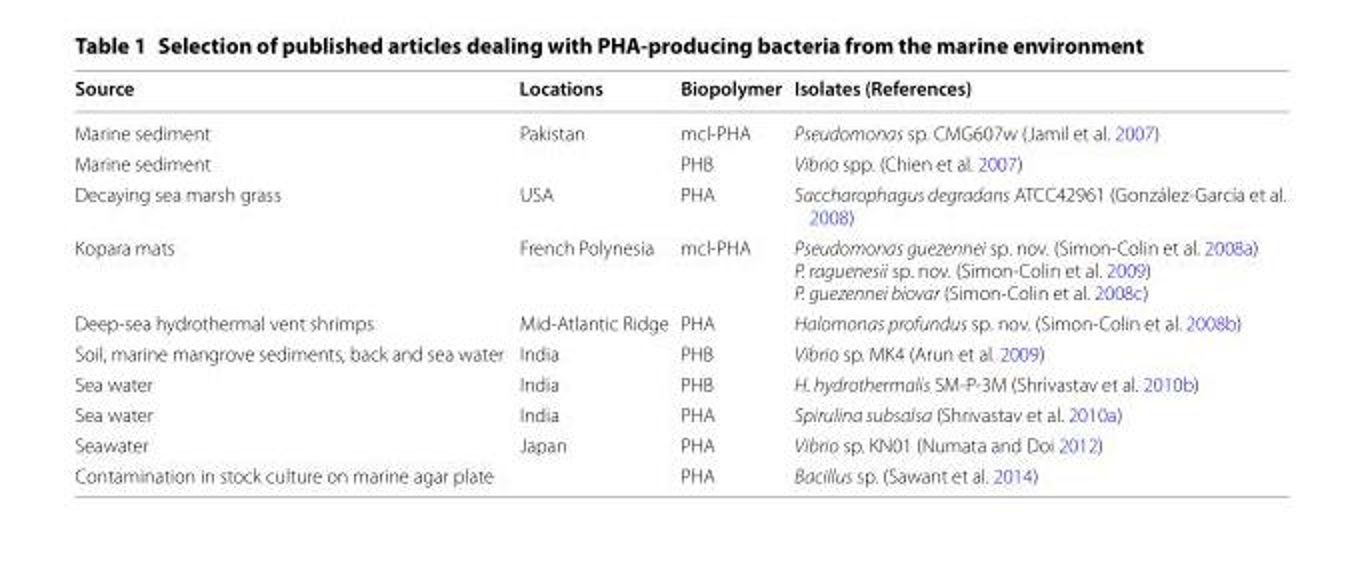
<table><thead><tr><td>Source</td><td>Locations</td><td>Biopolymer</td><td>Isolates (References)</td></tr></thead><tbody><tr><td>Marine sediment</td><td>Pakistan</td><td>mcl‑PHA</td><td>Pseudomonas sp. CMG607w (Jamil et al. 2007)</td></tr><tr><td>Marine sediment</td><td></td><td>PHB</td><td>Vibrio spp. (Chien et al. 2007)</td></tr><tr><td>Decaying sea marsh grass</td><td>USA</td><td>PHA</td><td>Saccharophagus degradans ATCC42961 (González‑García et al. 2008)</td></tr><tr><td>Kopara mats</td><td>French Polynesia</td><td>mcl‑PHA</td><td>Pseudomonas guezennei sp. nov. (Simon‑Colin et al. 2008a) P. raguenesii sp. nov. (Simon‑Colin et al. 2009) P. guezennei biovar (Simon‑Colin et al. 2008c)</td></tr><tr><td>Deep‑sea hydrothermal vent shrimps</td><td>Mid‑Atlantic Ridge</td><td>PHA</td><td>Halomonas profundus sp. nov. (Simon‑Colin et al. 2008b)</td></tr><tr><td>Soil, marine mangrove sediments, back and sea water</td><td>India</td><td>PHB</td><td>Vibrio sp. MK4 (Arun et al. 2009)</td></tr><tr><td>Sea water</td><td>India</td><td>PHB</td><td>H. hydrothermalis SM‑P‑3M (Shrivastav et al. 2010b)</td></tr><tr><td>Sea water</td><td>India</td><td>PHA</td><td>Spirulina subsalsa (Shrivastav et al. 2010a)</td></tr><tr><td>Seawater</td><td>Japan</td><td>PHA</td><td>Vibrio sp. KN01 (Numata and Doi 2012)</td></tr><tr><td>Contamination in stock culture on marine agar plate</td><td></td><td>PHA</td><td>Bacillus sp. (Sawant et al. 2014)</td></tr></tbody></table>